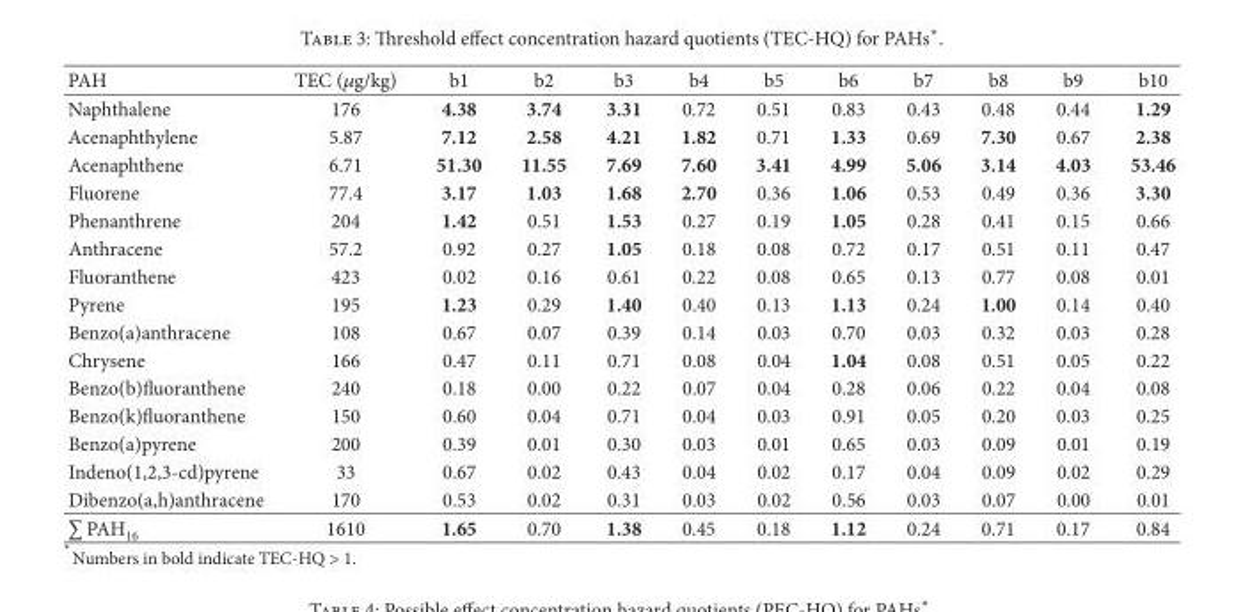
<table><thead><tr><td>PAH</td><td>TEC (𝜇𝜇g/kg)</td><td>b1</td><td>b2</td><td>b3</td><td>b4</td><td>b5</td><td>b6</td><td>b7</td><td>b8</td><td>b9</td><td>b10</td></tr></thead><tbody><tr><td>Naphthalene</td><td>176</td><td>4.38</td><td>3.74</td><td>3.31</td><td>0.72</td><td>0.51</td><td>0.83</td><td>0.43</td><td>0.48</td><td>0.44</td><td>1.29</td></tr><tr><td>Acenaphthylene</td><td>5.87</td><td>7.12</td><td>2.58</td><td>4.21</td><td>1.82</td><td>0.71</td><td>1.33</td><td>0.69</td><td>7.30</td><td>0.67</td><td>2.38</td></tr><tr><td>Acenaphthene</td><td>6.71</td><td>51.30</td><td>11.55</td><td>7.69</td><td>7.60</td><td>3.41</td><td>4.99</td><td>5.06</td><td>3.14</td><td>4.03</td><td>53.46</td></tr><tr><td>Fluorene</td><td>77.4</td><td>3.17</td><td>1.03</td><td>1.68</td><td>2.70</td><td>0.36</td><td>1.06</td><td>0.53</td><td>0.49</td><td>0.36</td><td>3.30</td></tr><tr><td>Phenanthrene</td><td>204</td><td>1.42</td><td>0.51</td><td>1.53</td><td>0.27</td><td>0.19</td><td>1.05</td><td>0.28</td><td>0.41</td><td>0.15</td><td>0.66</td></tr><tr><td>Anthracene</td><td>57.2</td><td>0.92</td><td>0.27</td><td>1.05</td><td>0.18</td><td>0.08</td><td>0.72</td><td>0.17</td><td>0.51</td><td>0.11</td><td>0.47</td></tr><tr><td>Fluoranthene</td><td>423</td><td>0.02</td><td>0.16</td><td>0.61</td><td>0.22</td><td>0.08</td><td>0.65</td><td>0.13</td><td>0.77</td><td>0.08</td><td>0.01</td></tr><tr><td>Pyrene</td><td>195</td><td>1.23</td><td>0.29</td><td>1.40</td><td>0.40</td><td>0.13</td><td>1.13</td><td>0.24</td><td>1.00</td><td>0.14</td><td>0.40</td></tr><tr><td>Benzo(a)anthracene</td><td>108</td><td>0.67</td><td>0.07</td><td>0.39</td><td>0.14</td><td>0.03</td><td>0.70</td><td>0.03</td><td>0.32</td><td>0.03</td><td>0.28</td></tr><tr><td>Chrysene</td><td>166</td><td>0.47</td><td>0.11</td><td>0.71</td><td>0.08</td><td>0.04</td><td>1.04</td><td>0.08</td><td>0.51</td><td>0.05</td><td>0.22</td></tr><tr><td>Benzo(b)�uoranthene</td><td>240</td><td>0.18</td><td>0.00</td><td>0.22</td><td>0.07</td><td>0.04</td><td>0.28</td><td>0.06</td><td>0.22</td><td>0.04</td><td>0.08</td></tr><tr><td>Benzo(k)�uoranthene</td><td>150</td><td>0.60</td><td>0.04</td><td>0.71</td><td>0.04</td><td>0.03</td><td>0.91</td><td>0.05</td><td>0.20</td><td>0.03</td><td>0.25</td></tr><tr><td>Benzo(a)pyrene</td><td>200</td><td>0.39</td><td>0.01</td><td>0.30</td><td>0.03</td><td>0.01</td><td>0.65</td><td>0.03</td><td>0.09</td><td>0.01</td><td>0.19</td></tr><tr><td>Indeno(1,2,3-cd)pyrene</td><td>33</td><td>0.67</td><td>0.02</td><td>0.43</td><td>0.04</td><td>0.02</td><td>0.17</td><td>0.04</td><td>0.09</td><td>0.02</td><td>0.29</td></tr><tr><td>Dibenzo(a,h)anthracene</td><td>170</td><td>0.53</td><td>0.02</td><td>0.31</td><td>0.03</td><td>0.02</td><td>0.56</td><td>0.03</td><td>0.07</td><td>0.00</td><td>0.01</td></tr><tr><td>∑ PAH<sub>16</sub></td><td>1610</td><td>1.65</td><td>0.70</td><td>1.38</td><td>0.45</td><td>0.18</td><td>1.12</td><td>0.24</td><td>0.71</td><td>0.17</td><td>0.84</td></tr></tbody></table>